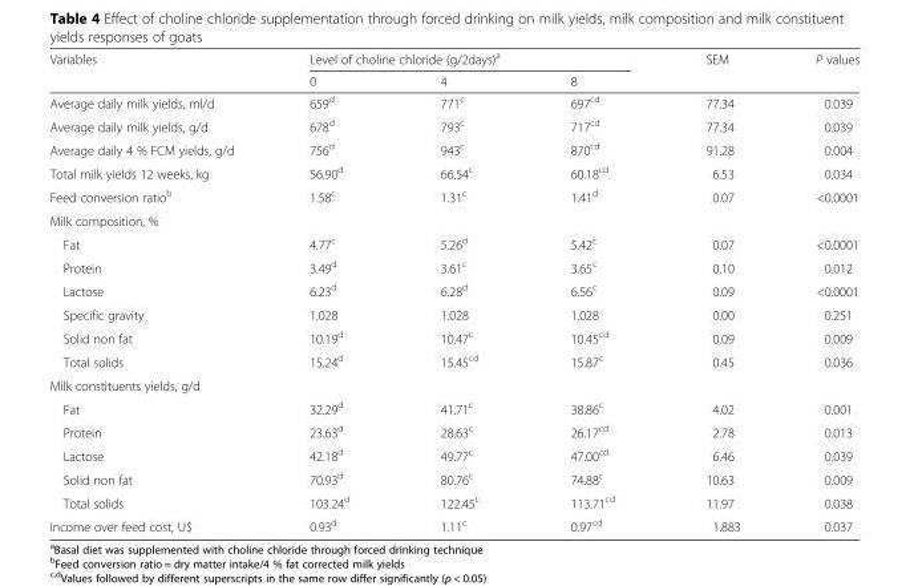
<table><thead><tr><td rowspan="2">Variables</td><td colspan="3">Level of choline chloride (g/2days)<sup>a</sup></td><td rowspan="2">SEM</td><td rowspan="2">P values</td></tr><tr><td>0</td><td>4</td><td>8</td></tr></thead><tbody><tr><td>Average daily milk yields, ml/d</td><td>659<sup>d</sup></td><td>771<sup>c</sup></td><td>697<sup>cd</sup></td><td>77.34</td><td>0.039</td></tr><tr><td>Average daily milk yields, g/d</td><td>678<sup>d</sup></td><td>793<sup>c</sup></td><td>717<sup>cd</sup></td><td>77.34</td><td>0.039</td></tr><tr><td>Average daily 4 % FCM yields, g/d</td><td>756<sup>d</sup></td><td>943<sup>c</sup></td><td>870<sup>cd</sup></td><td>91.28</td><td>0.004</td></tr><tr><td>Total milk yields 12 weeks, kg</td><td>56.90<sup>d</sup></td><td>66.54<sup>c</sup></td><td>60.18<sup>cd</sup></td><td>6.53</td><td>0.034</td></tr><tr><td>Feed conversion ratio<sup>b</sup></td><td>1.58<sup>c</sup></td><td>1.31<sup>c</sup></td><td>1.41<sup>d</sup></td><td>0.07</td><td>&lt;0.0001</td></tr><tr><td colspan="6">Milk composition, %</td></tr><tr><td>Fat</td><td>4.77<sup>c</sup></td><td>5.26<sup>d</sup></td><td>5.42<sup>c</sup></td><td>0.07</td><td>&lt;0.0001</td></tr><tr><td>Protein</td><td>3.49<sup>d</sup></td><td>3.61<sup>c</sup></td><td>3.65<sup>c</sup></td><td>0.10</td><td>0.012</td></tr><tr><td>Lactose</td><td>6.23<sup>d</sup></td><td>6.28<sup>d</sup></td><td>6.56<sup>c</sup></td><td>0.09</td><td>&lt;0.0001</td></tr><tr><td>Specific gravity</td><td>1.028</td><td>1.028</td><td>1.028</td><td>0.00</td><td>0.251</td></tr><tr><td>Solid non fat</td><td>10.19<sup>d</sup></td><td>10.47<sup>c</sup></td><td>10.45<sup>cd</sup></td><td>0.09</td><td>0.009</td></tr><tr><td>Total solids</td><td>15.24<sup>d</sup></td><td>15.45<sup>cd</sup></td><td>15.87<sup>c</sup></td><td>0.45</td><td>0.036</td></tr><tr><td colspan="6">Milk constituents yields, g/d</td></tr><tr><td>Fat</td><td>32.29<sup>d</sup></td><td>41.71<sup>c</sup></td><td>38.86<sup>c</sup></td><td>4.02</td><td>0.001</td></tr><tr><td>Protein</td><td>23.63<sup>d</sup></td><td>28.63<sup>c</sup></td><td>26.17<sup>cd</sup></td><td>2.78</td><td>0.013</td></tr><tr><td>Lactose</td><td>42.18<sup>d</sup></td><td>49.77<sup>c</sup></td><td>47.00<sup>cd</sup></td><td>6.46</td><td>0.039</td></tr><tr><td>Solid non fat</td><td>70.93<sup>d</sup></td><td>80.76<sup>c</sup></td><td>74.88<sup>c</sup></td><td>10.63</td><td>0.009</td></tr><tr><td>Total solids</td><td>103.24<sup>d</sup></td><td>122.45<sup>c</sup></td><td>113.71<sup>cd</sup></td><td>11.97</td><td>0.038</td></tr><tr><td>Income over feed cost, U$</td><td>0.93<sup>d</sup></td><td>1.11<sup>c</sup></td><td>0.97<sup>cd</sup></td><td>1.883</td><td>0.037</td></tr></tbody></table>